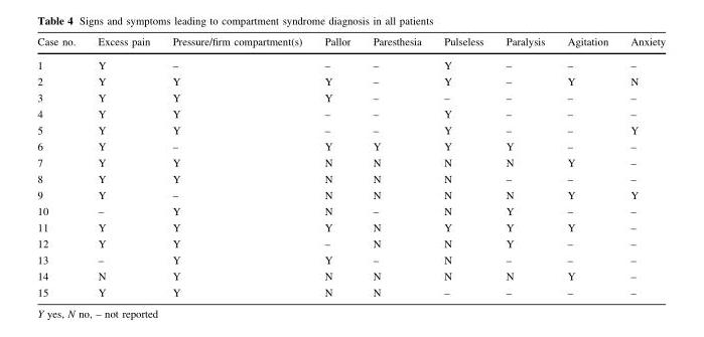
<table><thead><tr><td>Case no.</td><td>Excess pain</td><td>Pressure/firm compartment(s)</td><td>Pallor</td><td>Paresthesia</td><td>Pulseless</td><td>Paralysis</td><td>Agitation</td><td>Anxiety</td></tr></thead><tbody><tr><td>1</td><td>Y</td><td>–</td><td>–</td><td>–</td><td>Y</td><td>–</td><td>–</td><td>–</td></tr><tr><td>2</td><td>Y</td><td>Y</td><td>Y</td><td>–</td><td>Y</td><td>–</td><td>Y</td><td>N</td></tr><tr><td>3</td><td>Y</td><td>Y</td><td>Y</td><td>–</td><td>–</td><td>–</td><td>–</td><td>–</td></tr><tr><td>4</td><td>Y</td><td>Y</td><td>–</td><td>–</td><td>Y</td><td>–</td><td>–</td><td>–</td></tr><tr><td>5</td><td>Y</td><td>Y</td><td>–</td><td>–</td><td>Y</td><td>–</td><td>–</td><td>Y</td></tr><tr><td>6</td><td>Y</td><td>–</td><td>Y</td><td>Y</td><td>Y</td><td>Y</td><td>–</td><td>–</td></tr><tr><td>7</td><td>Y</td><td>Y</td><td>N</td><td>N</td><td>N</td><td>N</td><td>Y</td><td>–</td></tr><tr><td>8</td><td>Y</td><td>Y</td><td>N</td><td>N</td><td>N</td><td>–</td><td>–</td><td>–</td></tr><tr><td>9</td><td>Y</td><td>–</td><td>N</td><td>N</td><td>N</td><td>N</td><td>Y</td><td>Y</td></tr><tr><td>10</td><td>–</td><td>Y</td><td>N</td><td>–</td><td>N</td><td>Y</td><td>–</td><td>–</td></tr><tr><td>11</td><td>Y</td><td>Y</td><td>Y</td><td>N</td><td>Y</td><td>Y</td><td>Y</td><td>–</td></tr><tr><td>12</td><td>Y</td><td>Y</td><td>–</td><td>N</td><td>N</td><td>Y</td><td>–</td><td>–</td></tr><tr><td>13</td><td>–</td><td>Y</td><td>Y</td><td>–</td><td>N</td><td>–</td><td>–</td><td>–</td></tr><tr><td>14</td><td>N</td><td>Y</td><td>N</td><td>N</td><td>N</td><td>N</td><td>Y</td><td>–</td></tr><tr><td>15</td><td>Y</td><td>Y</td><td>N</td><td>N</td><td>–</td><td>–</td><td>–</td><td>–</td></tr></tbody></table>